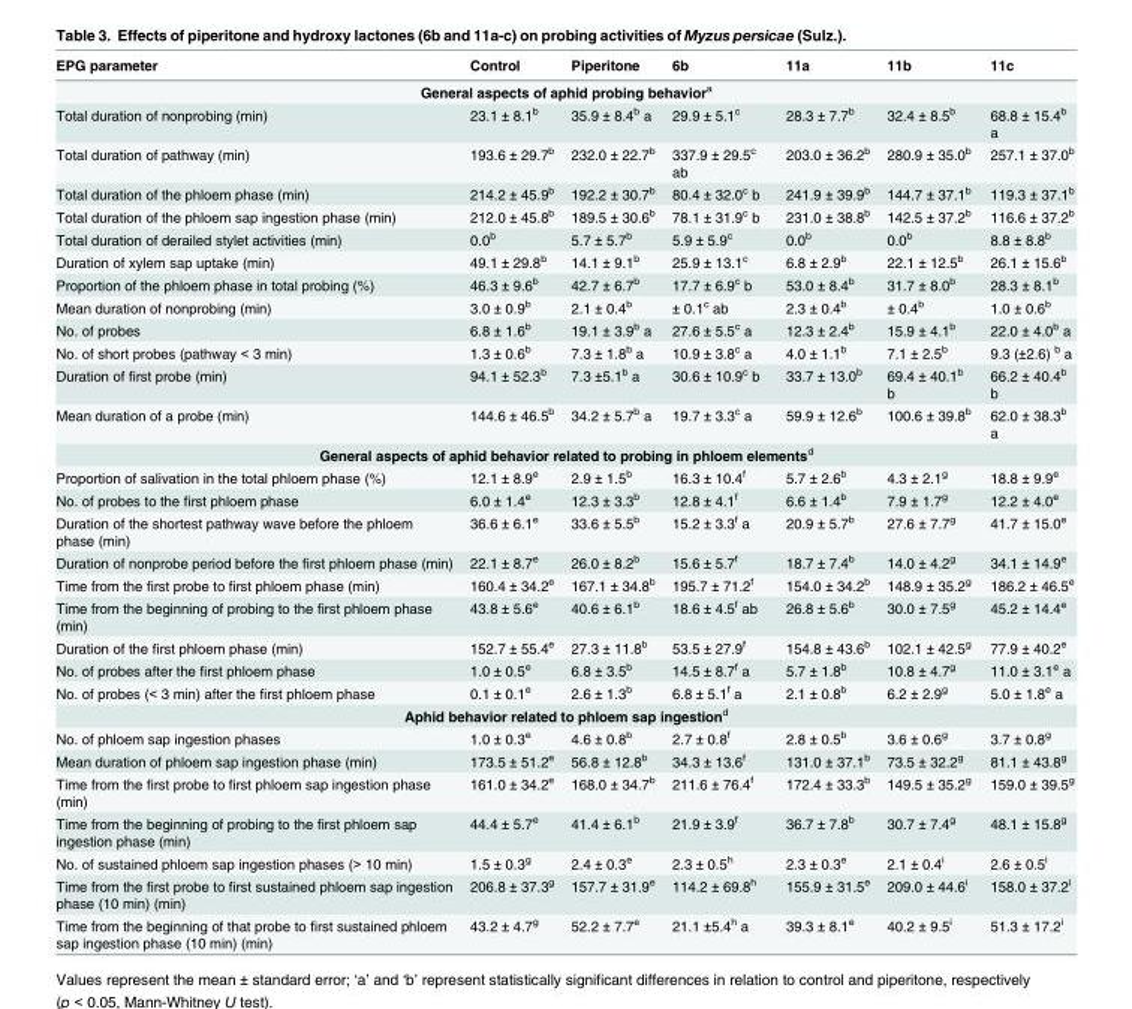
<table><thead><tr><td>EPG parameter</td><td>Control</td><td>Piperitone</td><td>6b</td><td>11a</td><td>11b</td><td>11c</td></tr></thead><tbody><tr><td colspan="7">General aspects of aphid probing behavior<sup>a</sup></td></tr><tr><td>Total duration of nonprobing (min)</td><td>23.1 ± 8.1<sup>b</sup></td><td>35.9 ± 8.4<sup>b</sup> a</td><td>29.9 ± 5.1<sup>c</sup></td><td>28.3 ± 7.7<sup>b</sup></td><td>32.4 ± 8.5<sup>b</sup></td><td>68.8 ± 15.4<sup>b</sup> a</td></tr><tr><td>Total duration of pathway (min)</td><td>193.6 ± 29.7<sup>b</sup></td><td>232.0 ± 22.7<sup>b</sup></td><td>337.9 ± 29.5<sup>c</sup> ab</td><td>203.0 ± 36.2<sup>b</sup></td><td>280.9 ± 35.0<sup>b</sup></td><td>257.1 ± 37.0<sup>b</sup></td></tr><tr><td>Total duration of the phloem phase (min)</td><td>214.2 ± 45.9<sup>b</sup></td><td>192.2 ± 30.7<sup>b</sup></td><td>80.4 ± 32.0<sup>c</sup> b</td><td>241.9 ± 39.9<sup>b</sup></td><td>144.7 ± 37.1<sup>b</sup></td><td>119.3 ± 37.1<sup>b</sup></td></tr><tr><td>Total duration of the phloem sap ingestion phase (min)</td><td>212.0 ± 45.8<sup>b</sup></td><td>189.5 ± 30.6<sup>b</sup></td><td>78.1 ± 31.9<sup>c</sup> b</td><td>231.0 ± 38.8<sup>b</sup></td><td>142.5 ± 37.2<sup>b</sup></td><td>116.6 ± 37.2<sup>b</sup></td></tr><tr><td>Total duration of derailed stylet activities (min)</td><td>0.0<sup>b</sup></td><td>5.7 ± 5.7<sup>b</sup></td><td>5.9 ± 5.9<sup>c</sup></td><td>0.0<sup>b</sup></td><td>0.0<sup>b</sup></td><td>8.8 ± 8.8<sup>b</sup></td></tr><tr><td>Duration of xylem sap uptake (min)</td><td>49.1 ± 29.8<sup>b</sup></td><td>14.1 ± 9.1<sup>b</sup></td><td>25.9 ± 13.1<sup>c</sup></td><td>6.8 ± 2.9<sup>b</sup></td><td>22.1 ± 12.5<sup>b</sup></td><td>26.1 ± 15.6<sup>b</sup></td></tr><tr><td>Proportion of the phloem phase in total probing (%)</td><td>46.3 ± 9.6<sup>b</sup></td><td>42.7 ± 6.7<sup>b</sup></td><td>17.7 ± 6.9<sup>c</sup> b</td><td>53.0 ± 8.4<sup>b</sup></td><td>31.7 ± 8.0<sup>b</sup></td><td>28.3 ± 8.1<sup>b</sup></td></tr><tr><td>Mean duration of nonprobing (min)</td><td>3.0 ± 0.9<sup>b</sup></td><td>2.1 ± 0.4<sup>b</sup></td><td>± 0.1<sup>c</sup> ab</td><td>2.3 ± 0.4<sup>b</sup></td><td>± 0.4<sup>b</sup></td><td>1.0 ± 0.6<sup>b</sup></td></tr><tr><td>No. of probes</td><td>6.8 ± 1.6<sup>b</sup></td><td>19.1 ± 3.9<sup>b</sup> a</td><td>27.6 ± 5.5<sup>c</sup> a</td><td>12.3 ± 2.4<sup>b</sup></td><td>15.9 ± 4.1<sup>b</sup></td><td>22.0 ± 4.0<sup>b</sup> a</td></tr><tr><td>No. of short probes (pathway &lt; 3 min)</td><td>1.3 ± 0.6<sup>b</sup></td><td>7.3 ± 1.8<sup>b</sup> a</td><td>10.9 ± 3.8<sup>c</sup> a</td><td>4.0 ± 1.1<sup>b</sup></td><td>7.1 ± 2.5<sup>b</sup></td><td>9.3 (±2.6) <sup>b</sup> a</td></tr><tr><td>Duration of first probe (min)</td><td>94.1 ± 52.3<sup>b</sup></td><td>7.3 ±5.1<sup>b</sup> a</td><td>30.6 ± 10.9<sup>c</sup> b</td><td>33.7 ± 13.0<sup>b</sup></td><td>69.4 ± 40.1<sup>b</sup> b</td><td>66.2 ± 40.4<sup>b</sup> b</td></tr><tr><td>Mean duration of a probe (min)</td><td>144.6 ± 46.5<sup>b</sup></td><td>34.2 ± 5.7<sup>b</sup> a</td><td>19.7 ± 3.3<sup>c</sup> a</td><td>59.9 ± 12.6<sup>b</sup></td><td>100.6 ± 39.8<sup>b</sup></td><td>62.0 ± 38.3<sup>b</sup> a</td></tr><tr><td colspan="7">General aspects of aphid behavior related to probing in phloem elements<sup>d</sup></td></tr><tr><td>Proportion of salivation in the total phloem phase (%)</td><td>12.1 ± 8.9<sup>e</sup></td><td>2.9 ± 1.5<sup>b</sup></td><td>16.3 ± 10.4<sup>f</sup></td><td>5.7 ± 2.6<sup>b</sup></td><td>4.3 ± 2.1<sup>g</sup></td><td>18.8 ± 9.9<sup>e</sup></td></tr><tr><td>No. of probes to the first phloem phase</td><td>6.0 ± 1.4<sup>e</sup></td><td>12.3 ± 3.3<sup>b</sup></td><td>12.8 ± 4.1<sup>f</sup></td><td>6.6 ± 1.4<sup>b</sup></td><td>7.9 ± 1.7<sup>g</sup></td><td>12.2 ± 4.0<sup>e</sup></td></tr><tr><td>Duration of the shortest pathway wave before the phloem phase (min)</td><td>36.6 ± 6.1<sup>e</sup></td><td>33.6 ± 5.5<sup>b</sup></td><td>15.2 ± 3.3<sup>f</sup> a</td><td>20.9 ± 5.7<sup>b</sup></td><td>27.6 ± 7.7<sup>g</sup></td><td>41.7 ± 15.0<sup>e</sup></td></tr><tr><td>Duration of nonprobe period before the first phloem phase (min)</td><td>22.1 ± 8.7<sup>e</sup></td><td>26.0 ± 8.2<sup>b</sup></td><td>15.6 ± 5.7<sup>f</sup></td><td>18.7 ± 7.4<sup>b</sup></td><td>14.0 ± 4.2<sup>g</sup></td><td>34.1 ± 14.9<sup>e</sup></td></tr><tr><td>Time from the first probe to first phloem phase (min)</td><td>160.4 ± 34.2<sup>e</sup></td><td>167.1 ± 34.8<sup>b</sup></td><td>195.7 ± 71.2<sup>f</sup></td><td>154.0 ± 34.2<sup>b</sup></td><td>148.9 ± 35.2<sup>g</sup></td><td>186.2 ± 46.5<sup>e</sup></td></tr><tr><td>Time from the beginning of probing to the first phloem phase (min)</td><td>43.8 ± 5.6<sup>e</sup></td><td>40.6 ± 6.1<sup>b</sup></td><td>18.6 ± 4.5<sup>f</sup> ab</td><td>26.8 ± 5.6<sup>b</sup></td><td>30.0 ± 7.5<sup>g</sup></td><td>45.2 ± 14.4<sup>e</sup></td></tr><tr><td>Duration of the first phloem phase (min)</td><td>152.7 ± 55.4<sup>e</sup></td><td>27.3 ± 11.8<sup>b</sup></td><td>53.5 ± 27.9<sup>f</sup></td><td>154.8 ± 43.6<sup>b</sup></td><td>102.1 ± 42.5<sup>g</sup></td><td>77.9 ± 40.2<sup>e</sup></td></tr><tr><td>No. of probes after the first phloem phase</td><td>1.0 ± 0.5<sup>e</sup></td><td>6.8 ± 3.5<sup>b</sup></td><td>14.5 ± 8.7<sup>f</sup> a</td><td>5.7 ± 1.8<sup>b</sup></td><td>10.8 ± 4.7<sup>g</sup></td><td>11.0 ± 3.1<sup>e</sup> a</td></tr><tr><td>No. of probes (&lt; 3 min) after the first phloem phase</td><td>0.1 ± 0.1<sup>e</sup></td><td>2.6 ± 1.3<sup>b</sup></td><td>6.8 ± 5.1<sup>f</sup> a</td><td>2.1 ± 0.8<sup>b</sup></td><td>6.2 ± 2.9<sup>g</sup></td><td>5.0 ± 1.8<sup>e</sup> a</td></tr><tr><td colspan="7">Aphid behavior related to phloem sap ingestion<sup>d</sup></td></tr><tr><td>No. of phloem sap ingestion phases</td><td>1.0 ± 0.3<sup>e</sup></td><td>4.6 ± 0.8<sup>b</sup></td><td>2.7 ± 0.8<sup>f</sup></td><td>2.8 ± 0.5<sup>b</sup></td><td>3.6 ± 0.6<sup>g</sup></td><td>3.7 ± 0.8<sup>g</sup></td></tr><tr><td>Mean duration of phloem sap ingestion phase (min)</td><td>173.5 ± 51.2<sup>e</sup></td><td>56.8 ± 12.8<sup>b</sup></td><td>34.3 ± 13.6<sup>f</sup></td><td>131.0 ± 37.1<sup>b</sup></td><td>73.5 ± 32.2<sup>g</sup></td><td>81.1 ± 43.8<sup>g</sup></td></tr><tr><td>Time from the first probe to first phloem sap ingestion phase (min)</td><td>161.0 ± 34.2<sup>e</sup></td><td>168.0 ± 34.7<sup>b</sup></td><td>211.6 ± 76.4<sup>f</sup></td><td>172.4 ± 33.3<sup>b</sup></td><td>149.5 ± 35.2<sup>g</sup></td><td>159.0 ± 39.5<sup>g</sup></td></tr><tr><td>Time from the beginning of probing to the first phloem sap ingestion phase (min)</td><td>44.4 ± 5.7<sup>e</sup></td><td>41.4 ± 6.1<sup>b</sup></td><td>21.9 ± 3.9<sup>f</sup></td><td>36.7 ± 7.8<sup>b</sup></td><td>30.7 ± 7.4<sup>g</sup></td><td>48.1 ± 15.8<sup>g</sup></td></tr><tr><td>No. of sustained phloem sap ingestion phases (&gt; 10 min)</td><td>1.5 ± 0.3<sup>g</sup></td><td>2.4 ± 0.3<sup>e</sup></td><td>2.3 ± 0.5<sup>h</sup></td><td>2.3 ± 0.3<sup>e</sup></td><td>2.1 ± 0.4<sup>i</sup></td><td>2.6 ± 0.5<sup>i</sup></td></tr><tr><td>Time from the first probe to first sustained phloem sap ingestion phase (10 min) (min)</td><td>206.8 ± 37.3<sup>g</sup></td><td>157.7 ± 31.9<sup>e</sup></td><td>114.2 ± 69.8<sup>h</sup></td><td>155.9 ± 31.5<sup>e</sup></td><td>209.0 ± 44.6<sup>i</sup></td><td>158.0 ± 37.2<sup>i</sup></td></tr><tr><td>Time from the beginning of that probe to first sustained phloem sap ingestion phase (10 min) (min)</td><td>43.2 ± 4.7<sup>g</sup></td><td>52.2 ± 7.7<sup>e</sup></td><td>21.1 ±5.4<sup>h</sup> a</td><td>39.3 ± 8.1<sup>e</sup></td><td>40.2 ± 9.5<sup>i</sup></td><td>51.3 ± 17.2<sup>i</sup></td></tr></tbody></table>